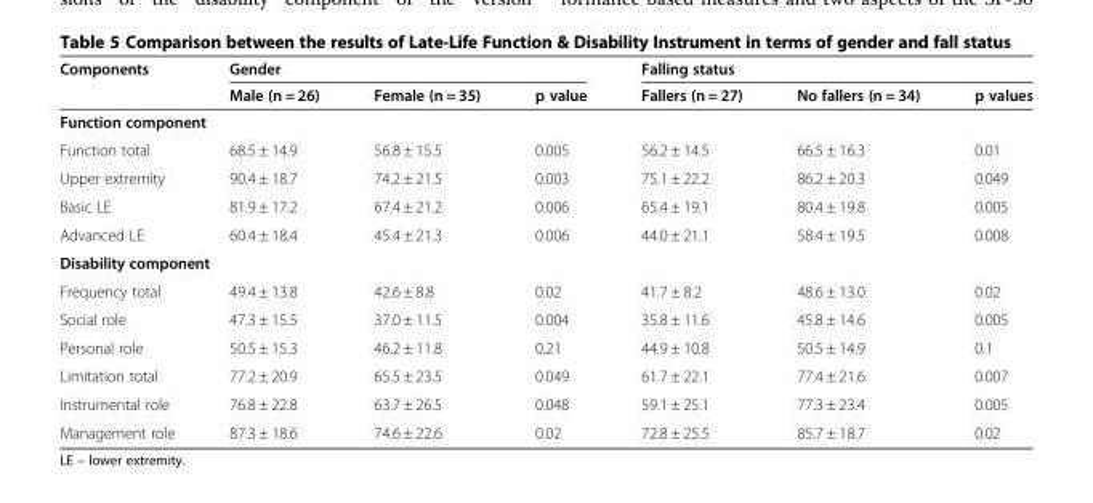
<table><thead><tr><td rowspan="2">Components</td><td colspan="3">Gender</td><td colspan="3">Falling status</td></tr><tr><td>Male (n = 26)</td><td>Female (n = 35)</td><td>p value</td><td>Fallers (n = 27)</td><td>No fallers (n = 34)</td><td>p values</td></tr></thead><tbody><tr><td colspan="7">Function component</td></tr><tr><td>Function total</td><td>68.5 ± 14.9</td><td>56.8 ± 15.5</td><td>0.005</td><td>56.2 ± 14.5</td><td>66.5 ± 16.3</td><td>0.01</td></tr><tr><td>Upper extremity</td><td>90.4 ± 18.7</td><td>74.2 ± 21.5</td><td>0.003</td><td>75.1 ± 22.2</td><td>86.2 ± 20.3</td><td>0.049</td></tr><tr><td>Basic LE</td><td>81.9 ± 17.2</td><td>67.4 ± 21.2</td><td>0.006</td><td>65.4 ± 19.1</td><td>80.4 ± 19.8</td><td>0.005</td></tr><tr><td>Advanced LE</td><td>60.4 ± 18.4</td><td>45.4 ± 21.3</td><td>0.006</td><td>44.0 ± 21.1</td><td>58.4 ± 19.5</td><td>0.008</td></tr><tr><td colspan="7">Disability component</td></tr><tr><td>Frequency total</td><td>49.4 ± 13.8</td><td>42.6 ± 8.8</td><td>0.02</td><td>41.7 ± 8.2</td><td>48.6 ± 13.0</td><td>0.02</td></tr><tr><td>Social role</td><td>47.3 ± 15.5</td><td>37.0 ± 11.5</td><td>0.004</td><td>35.8 ± 11.6</td><td>45.8 ± 14.6</td><td>0.005</td></tr><tr><td>Personal role</td><td>50.5 ± 15.3</td><td>46.2 ± 11.8</td><td>0.21</td><td>44.9 ± 10.8</td><td>50.5 ± 14.9</td><td>0.1</td></tr><tr><td>Limitation total</td><td>77.2 ± 20.9</td><td>65.5 ± 23.5</td><td>0.049</td><td>61.7 ± 22.1</td><td>77.4 ± 21.6</td><td>0.007</td></tr><tr><td>Instrumental role</td><td>76.8 ± 22.8</td><td>63.7 ± 26.5</td><td>0.048</td><td>59.1 ± 25.1</td><td>77.3 ± 23.4</td><td>0.005</td></tr><tr><td>Management role</td><td>87.3 ± 18.6</td><td>74.6 ± 22.6</td><td>0.02</td><td>72.8 ± 25.5</td><td>85.7 ± 18.7</td><td>0.02</td></tr></tbody></table>